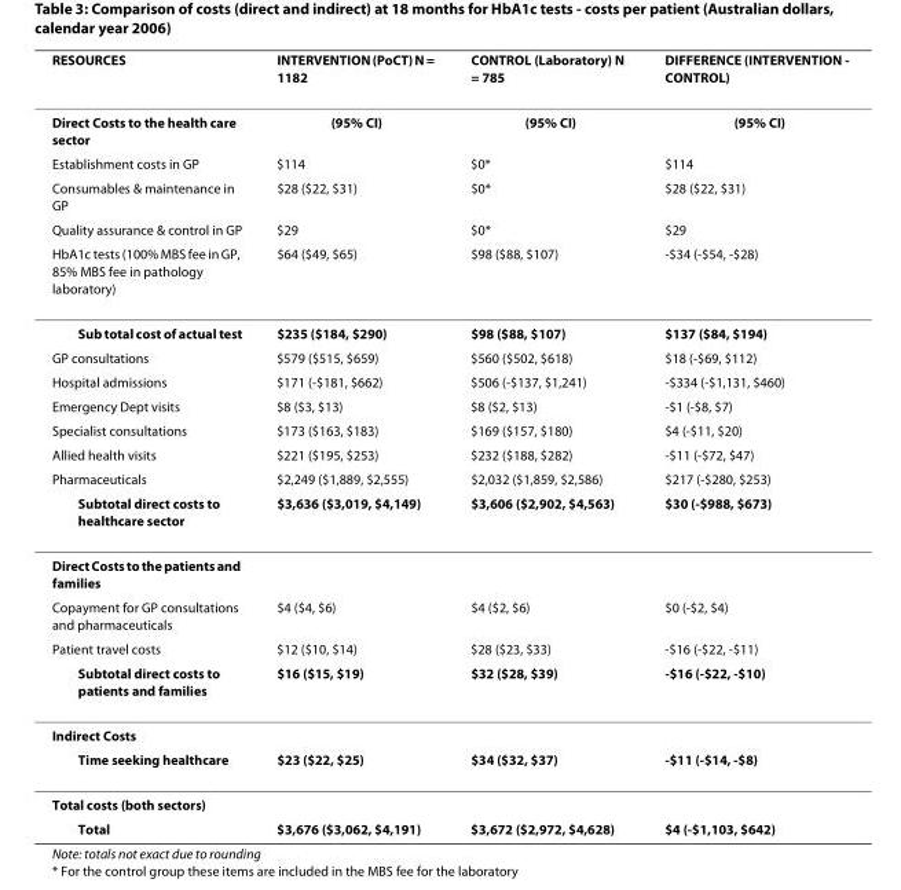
<table><thead><tr><td>RESOURCES</td><td>INTERVENTION (PoCT) N = 1182</td><td>CONTROL (Laboratory) N = 785</td><td>DIFFERENCE (INTERVENTION - CONTROL)</td></tr></thead><tbody><tr><td>Direct Costs to the health care sector</td><td>(95% CI)</td><td>(95% CI)</td><td>(95% CI)</td></tr><tr><td>Establishment costs in GP</td><td>$114</td><td>$0*</td><td>$114</td></tr><tr><td>Consumables &amp; maintenance in GP</td><td>$28 ($22, $31)</td><td>$0*</td><td>$28 ($22, $31)</td></tr><tr><td>Quality assurance &amp; control in GP</td><td>$29</td><td>$0*</td><td>$29</td></tr><tr><td>HbA1c tests (100% MBS fee in GP, 85% MBS fee in pathology laboratory)</td><td>$64 ($49, $65)</td><td>$98 ($88, $107)</td><td>-$34 (-$54, -$28)</td></tr><tr><td>Sub total cost of actual test</td><td>$235 ($184, $290)</td><td>$98 ($88, $107)</td><td>$137 ($84, $194)</td></tr><tr><td>GP consultations</td><td>$579 ($515, $659)</td><td>$560 ($502, $618)</td><td>$18 (-$69, $112)</td></tr><tr><td>Hospital admissions</td><td>$171 (-$181, $662)</td><td>$506 (-$137, $1,241)</td><td>-$334 (-$1,131, $460)</td></tr><tr><td>Emergency Dept visits</td><td>$8 ($3, $13)</td><td>$8 ($2, $13)</td><td>-$1 (-$8, $7)</td></tr><tr><td>Specialist consultations</td><td>$173 ($163, $183)</td><td>$169 ($157, $180)</td><td>$4 (-$11, $20)</td></tr><tr><td>Allied health visits</td><td>$221 ($195, $253)</td><td>$232 ($188, $282)</td><td>-$11 (-$72, $47)</td></tr><tr><td>Pharmaceuticals</td><td>$2,249 ($1,889, $2,555)</td><td>$2,032 ($1,859, $2,586)</td><td>$217 (-$280, $253)</td></tr><tr><td>Subtotal direct costs to healthcare sector</td><td>$3,636 ($3,019, $4,149)</td><td>$3,606 ($2,902, $4,563)</td><td>$30 (-$988, $673)</td></tr><tr><td colspan="4">Direct Costs to the patients and families</td></tr><tr><td>Copayment for GP consultations and pharmaceuticals</td><td>$4 ($4, $6)</td><td>$4 ($2, $6)</td><td>$0 (-$2, $4)</td></tr><tr><td>Patient travel costs</td><td>$12 ($10, $14)</td><td>$28 ($23, $33)</td><td>-$16 (-$22, -$11)</td></tr><tr><td>Subtotal direct costs to patients and families</td><td>$16 ($15, $19)</td><td>$32 ($28, $39)</td><td>-$16 (-$22, -$10)</td></tr><tr><td colspan="4">Indirect Costs</td></tr><tr><td>Time seeking healthcare</td><td>$23 ($22, $25)</td><td>$34 ($32, $37)</td><td>-$11 (-$14, -$8)</td></tr><tr><td colspan="4">Total costs (both sectors)</td></tr><tr><td>Total</td><td>$3,676 ($3,062, $4,191)</td><td>$3,672 ($2,972, $4,628)</td><td>$4 (-$1,103, $642)</td></tr></tbody></table>